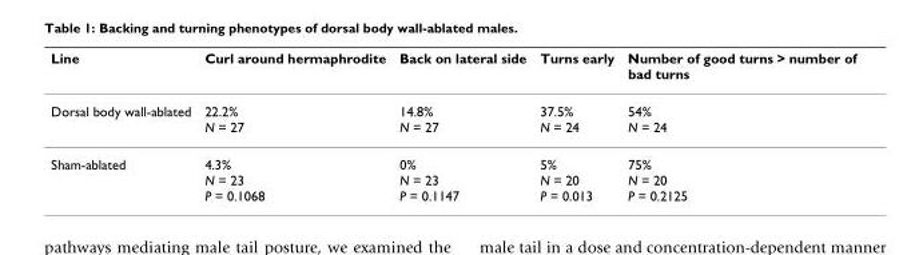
<table><thead><tr><td>Line</td><td>Curl around hermaphrodite</td><td>Back on lateral side</td><td>Turns early</td><td>Number of good turns &gt; number of bad turns</td></tr></thead><tbody><tr><td>Dorsal body wall-ablated</td><td>22.2% N = 27</td><td>14.8% N = 27</td><td>37.5% N = 24</td><td>54% N = 24</td></tr><tr><td>Sham-ablated</td><td>4.3% N = 23 P = 0.1068</td><td>0% N = 23 P = 0.1147</td><td>5% N = 20 P = 0.013</td><td>75% N = 20 P = 0.2125</td></tr></tbody></table>